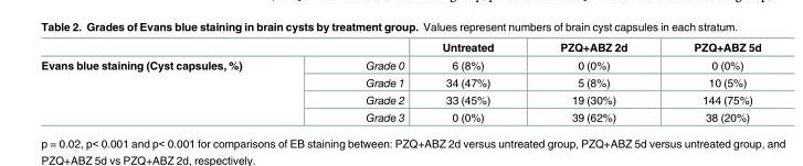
<table><thead><tr><td></td><td></td><td>Untreated</td><td>PZQ+ABZ 2d</td><td>PZQ+ABZ 5d</td></tr></thead><tbody><tr><td rowspan="4">Evans blue staining (Cyst capsules, %)</td><td>Grade 0</td><td>6 (8%)</td><td>0 (0%)</td><td>0 (0%)</td></tr><tr><td>Grade 1</td><td>34 (47%)</td><td>5 (8%)</td><td>10 (5%)</td></tr><tr><td>Grade 2</td><td>33 (45%)</td><td>19 (30%)</td><td>144 (75%)</td></tr><tr><td>Grade 3</td><td>0 (0%)</td><td>39 (62%)</td><td>38 (20%)</td></tr></tbody></table>